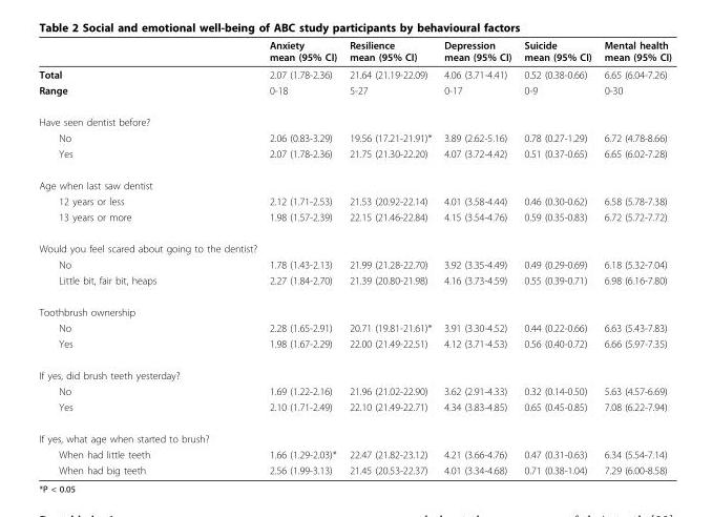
<table><thead><tr><td></td><td>Anxiety mean (95% CI)</td><td>Resilience mean (95% CI)</td><td>Depression mean (95% CI)</td><td>Suicide mean (95% CI)</td><td>Mental health mean (95% CI)</td></tr></thead><tbody><tr><td>Total</td><td>2.07 (1.78-2.36)</td><td>21.64 (21.19-22.09)</td><td>4.06 (3.71-4.41)</td><td>0.52 (0.38-0.66)</td><td>6.65 (6.04-7.26)</td></tr><tr><td>Range</td><td>0-18</td><td>5-27</td><td>0-17</td><td>0-9</td><td>0-30</td></tr><tr><td colspan="6">Have seen dentist before?</td></tr><tr><td>No</td><td>2.06 (0.83-3.29)</td><td>19.56 (17.21-21.91)*</td><td>3.89 (2.62-5.16)</td><td>0.78 (0.27-1.29)</td><td>6.72 (4.78-8.66)</td></tr><tr><td>Yes</td><td>2.07 (1.78-2.36)</td><td>21.75 (21.30-22.20)</td><td>4.07 (3.72-4.42)</td><td>0.51 (0.37-0.65)</td><td>6.65 (6.02-7.28)</td></tr><tr><td colspan="6">Age when last saw dentist</td></tr><tr><td>12 years or less</td><td>2.12 (1.71-2.53)</td><td>21.53 (20.92-22.14)</td><td>4.01 (3.58-4.44)</td><td>0.46 (0.30-0.62)</td><td>6.58 (5.78-7.38)</td></tr><tr><td>13 years or more</td><td>1.98 (1.57-2.39)</td><td>22.15 (21.46-22.84)</td><td>4.15 (3.54-4.76)</td><td>0.59 (0.35-0.83)</td><td>6.72 (5.72-7.72)</td></tr><tr><td colspan="6">Would you feel scared about going to the dentist?</td></tr><tr><td>No</td><td>1.78 (1.43-2.13)</td><td>21.99 (21.28-22.70)</td><td>3.92 (3.35-4.49)</td><td>0.49 (0.29-0.69)</td><td>6.18 (5.32-7.04)</td></tr><tr><td>Little bit, fair bit, heaps</td><td>2.27 (1.84-2.70)</td><td>21.39 (20.80-21.98)</td><td>4.16 (3.73-4.59)</td><td>0.55 (0.39-0.71)</td><td>6.98 (6.16-7.80)</td></tr><tr><td colspan="6">Toothbrush ownership</td></tr><tr><td>No</td><td>2.28 (1.65-2.91)</td><td>20.71 (19.81-21.61)*</td><td>3.91 (3.30-4.52)</td><td>0.44 (0.22-0.66)</td><td>6.63 (5.43-7.83)</td></tr><tr><td>Yes</td><td>1.98 (1.67-2.29)</td><td>22.00 (21.49-22.51)</td><td>4.12 (3.71-4.53)</td><td>0.56 (0.40-0.72)</td><td>6.66 (5.97-7.35)</td></tr><tr><td colspan="6">If yes, did brush teeth yesterday?</td></tr><tr><td>No</td><td>1.69 (1.22-2.16)</td><td>21.96 (21.02-22.90)</td><td>3.62 (2.91-4.33)</td><td>0.32 (0.14-0.50)</td><td>5.63 (4.57-6.69)</td></tr><tr><td>Yes</td><td>2.10 (1.71-2.49)</td><td>22.10 (21.49-22.71)</td><td>4.34 (3.83-4.85)</td><td>0.65 (0.45-0.85)</td><td>7.08 (6.22-7.94)</td></tr><tr><td colspan="6">If yes, what age when started to brush?</td></tr><tr><td>When had little teeth</td><td>1.66 (1.29-2.03)*</td><td>22.47 (21.82-23.12)</td><td>4.21 (3.66-4.76)</td><td>0.47 (0.31-0.63)</td><td>6.34 (5.54-7.14)</td></tr><tr><td>When had big teeth</td><td>2.56 (1.99-3.13)</td><td>21.45 (20.53-22.37)</td><td>4.01 (3.34-4.68)</td><td>0.71 (0.38-1.04)</td><td>7.29 (6.00-8.58)</td></tr></tbody></table>